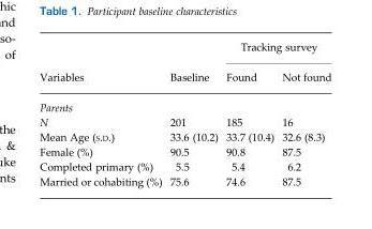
<table><thead><tr><td rowspan="2">Variables</td><td rowspan="2">Baseline</td><td colspan="2">Tracking survey</td></tr><tr><td>Found</td><td>Not found</td></tr></thead><tbody><tr><td colspan="4">Parents</td></tr><tr><td>N</td><td>201</td><td>185</td><td>16</td></tr><tr><td>Mean Age (S.D.)</td><td>33.6 (10.2)</td><td>33.7 (10.4)</td><td>32.6 (8.3)</td></tr><tr><td>Female (%)</td><td>90.5</td><td>90.8</td><td>87.5</td></tr><tr><td>Completed primary (%)</td><td>5.5</td><td>5.4</td><td>6.2</td></tr><tr><td>Married or cohabiting (%)</td><td>75.6</td><td>74.6</td><td>87.5</td></tr></tbody></table>